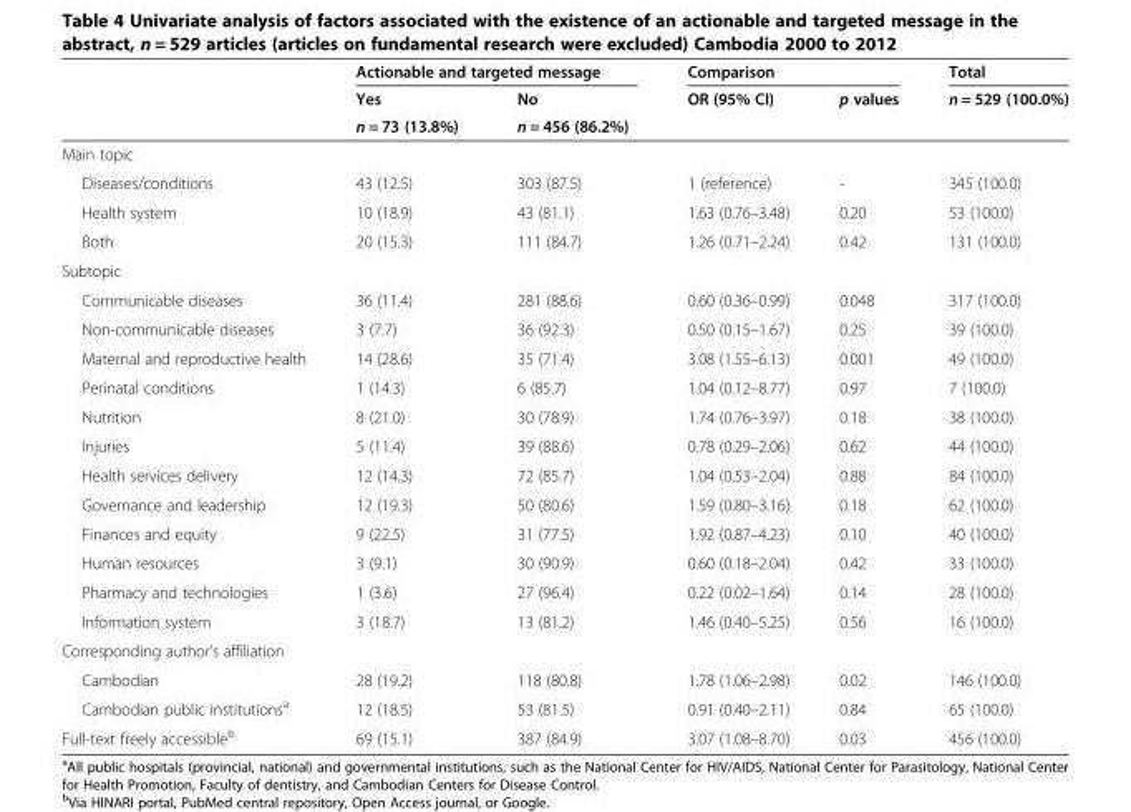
<table><thead><tr><td rowspan="3"></td><td colspan="2">Actionable and targeted message</td><td colspan="2">Comparison</td><td rowspan="3">Total n = 529 (100.0%)</td></tr><tr><td rowspan="2">Yes n = 73 (13.8%)</td><td rowspan="2">No n = 456 (86.2%)</td><td rowspan="2">OR (95% CI)</td><td rowspan="2">p values</td></tr><tr></tr></thead><tbody><tr><td colspan="6">Main topic</td></tr><tr><td>Diseases/conditions</td><td>43 (12.5)</td><td>303 (87.5)</td><td>1 (reference)</td><td>-</td><td>345 (100.0)</td></tr><tr><td>Health system</td><td>10 (18.9)</td><td>43 (81.1)</td><td>1.63 (0.76–3.48)</td><td>0.20</td><td>53 (100.0)</td></tr><tr><td>Both</td><td>20 (15.3)</td><td>111 (84.7)</td><td>1.26 (0.71–2.24)</td><td>0.42</td><td>131 (100.0)</td></tr><tr><td colspan="6">Subtopic</td></tr><tr><td>Communicable diseases</td><td>36 (11.4)</td><td>281 (88.6)</td><td>0.60 (0.36–0.99)</td><td>0.048</td><td>317 (100.0)</td></tr><tr><td>Non-communicable diseases</td><td>3 (7.7)</td><td>36 (92.3)</td><td>0.50 (0.15–1.67)</td><td>0.25</td><td>39 (100.0)</td></tr><tr><td>Maternal and reproductive health</td><td>14 (28.6)</td><td>35 (71.4)</td><td>3.08 (1.55–6.13)</td><td>0.001</td><td>49 (100.0)</td></tr><tr><td>Perinatal conditions</td><td>1 (14.3)</td><td>6 (85.7)</td><td>1.04 (0.12–8.77)</td><td>0.97</td><td>7 (100.0)</td></tr><tr><td>Nutrition</td><td>8 (21.0)</td><td>30 (78.9)</td><td>1.74 (0.76–3.97)</td><td>0.18</td><td>38 (100.0)</td></tr><tr><td>Injuries</td><td>5 (11.4)</td><td>39 (88.6)</td><td>0.78 (0.29–2.06)</td><td>0.62</td><td>44 (100.0)</td></tr><tr><td>Health services delivery</td><td>12 (14.3)</td><td>72 (85.7)</td><td>1.04 (0.53–2.04)</td><td>0.88</td><td>84 (100.0)</td></tr><tr><td>Governance and leadership</td><td>12 (19.3)</td><td>50 (80.6)</td><td>1.59 (0.80–3.16)</td><td>0.18</td><td>62 (100.0)</td></tr><tr><td>Finances and equity</td><td>9 (22.5)</td><td>31 (77.5)</td><td>1.92 (0.87–4.23)</td><td>0.10</td><td>40 (100.0)</td></tr><tr><td>Human resources</td><td>3 (9.1)</td><td>30 (90.9)</td><td>0.60 (0.18–2.04)</td><td>0.42</td><td>33 (100.0)</td></tr><tr><td>Pharmacy and technologies</td><td>1 (3.6)</td><td>27 (96.4)</td><td>0.22 (0.02–1.64)</td><td>0.14</td><td>28 (100.0)</td></tr><tr><td>Information system</td><td>3 (18.7)</td><td>13 (81.2)</td><td>1.46 (0.40–5.25)</td><td>0.56</td><td>16 (100.0)</td></tr><tr><td colspan="6">Corresponding author’s affiliation</td></tr><tr><td>Cambodian</td><td>28 (19.2)</td><td>118 (80.8)</td><td>1.78 (1.06–2.98)</td><td>0.02</td><td>146 (100.0)</td></tr><tr><td>Cambodian public institutions<sup>a</sup></td><td>12 (18.5)</td><td>53 (81.5)</td><td>0.91 (0.40–2.11)</td><td>0.84</td><td>65 (100.0)</td></tr><tr><td>Full-text freely accessible<sup>b</sup></td><td>69 (15.1)</td><td>387 (84.9)</td><td>3.07 (1.08–8.70)</td><td>0.03</td><td>456 (100.0)</td></tr></tbody></table>